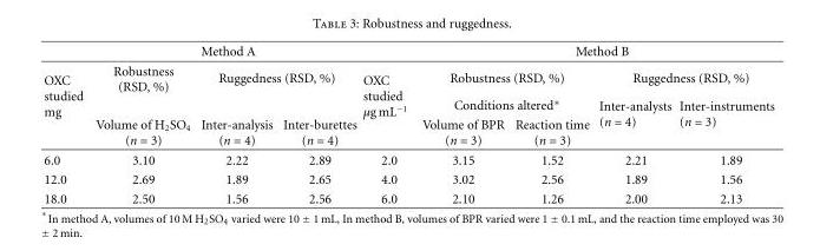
<table><thead><tr><td rowspan="4">OXC studied mg</td><td colspan="3">Method A</td><td rowspan="4">OXC studied μg mL−1</td><td colspan="4">Method B</td></tr><tr><td rowspan="3">Robustness (RSD, %) Volume of H2SO4 (n = 3)</td><td colspan="2">Ruggedness (RSD, %)</td><td rowspan="2" colspan="2">Robustness (RSD, %) Conditions altered∗</td><td colspan="2">Ruggedness (RSD, %)</td></tr><tr><td rowspan="2">Inter-analysis (n = 4)</td><td rowspan="2">Inter-burettes (n = 4)</td><td rowspan="2">Inter-analysts (n = 4)</td><td rowspan="2">Inter-instruments (n = 3)</td></tr><tr><td>Volume of BPR (n = 3)</td><td>Reaction time (n = 3)</td></tr></thead><tbody><tr><td>6.0</td><td>3.10</td><td>2.22</td><td>2.89</td><td>2.0</td><td>3.15</td><td>1.52</td><td>2.21</td><td>1.89</td></tr><tr><td>12.0</td><td>2.69</td><td>1.89</td><td>2.65</td><td>4.0</td><td>3.02</td><td>2.56</td><td>1.89</td><td>1.56</td></tr><tr><td>18.0</td><td>2.50</td><td>1.56</td><td>2.56</td><td>6.0</td><td>2.10</td><td>1.26</td><td>2.00</td><td>2.13</td></tr></tbody></table>